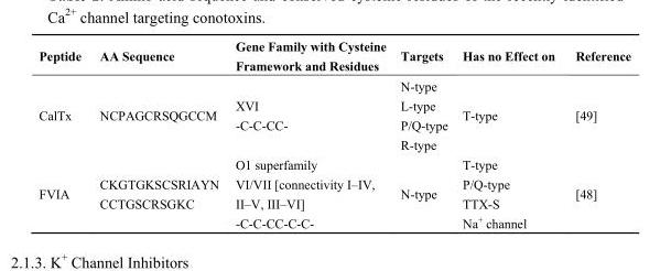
<table><thead><tr><td>Peptide</td><td>AA Sequence</td><td>Gene Family with Cysteine Framework and Residues</td><td>Targets</td><td>Has no Effect on</td><td>Reference</td></tr></thead><tbody><tr><td>CalTx</td><td>NCPAGCRSQGCCM</td><td>XVI -C-C-CC-</td><td>N-type L-type P/Q-type R-type</td><td>T-type</td><td>[49]</td></tr><tr><td>FVIA</td><td>CKGTGKSCSRIAYN CCTGSCRSGKC</td><td>O1 superfamily VI/VII [connectivity I–IV, II–V, III–VI] -C-C-CC-C-C-</td><td>N-type</td><td>T-type P/Q-type TTX-S Na<sup>+</sup> channel</td><td>[48]</td></tr></tbody></table>